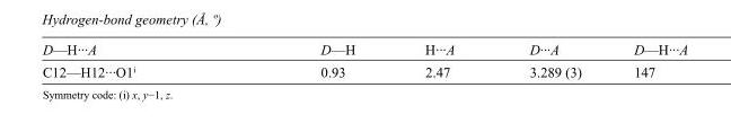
<table><tbody><tr><td>D—H···A</td><td>D—H</td><td>H···A</td><td>D···A</td><td>D—H···A</td></tr><tr><td>C12—H12···O1<sup>i</sup></td><td>0.93</td><td>2.47</td><td>3.289 (3)</td><td>147</td></tr></tbody></table>